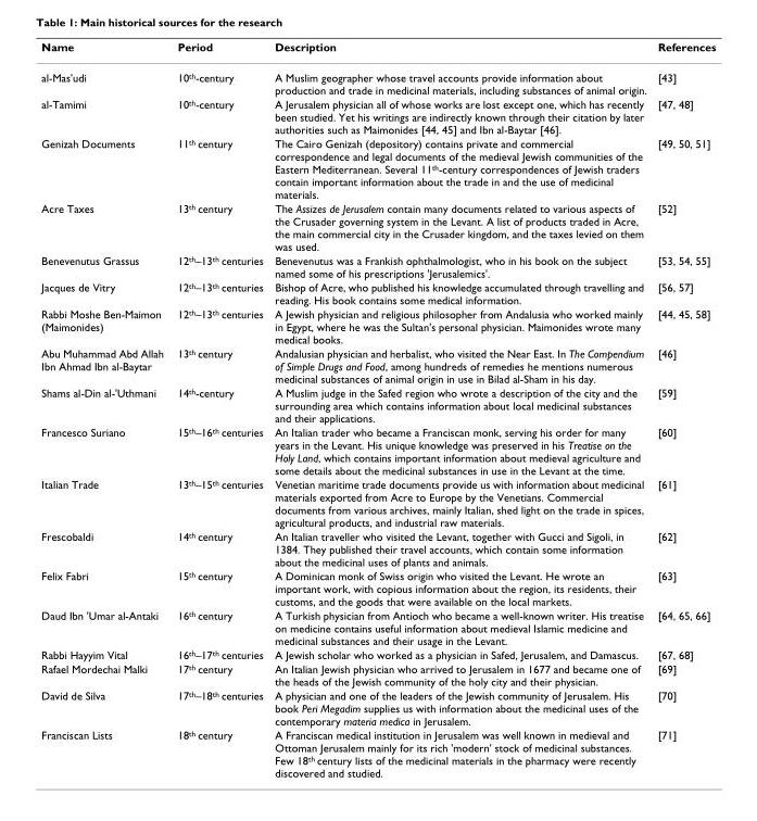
<table><thead><tr><td>Name</td><td>Period</td><td>Description</td><td>References</td></tr></thead><tbody><tr><td>al-Mas&#x27;udi</td><td>10<sup>th</sup>-century</td><td>A Muslim geographer whose travel accounts provide information about production and trade in medicinal materials, including substances of animal origin.</td><td>[43]</td></tr><tr><td>al-Tamimi</td><td>10<sup>th</sup>-century</td><td>A Jerusalem physician all of whose works are lost except one, which has recently been studied. Yet his writings are indirectly known through their citation by later authorities such as Maimonides [44, 45] and Ibn al-Baytar [46].</td><td>[47, 48]</td></tr><tr><td>Genizah Documents</td><td>11<sup>th</sup> century</td><td>The Cairo Genizah (depository) contains private and commercial correspondence and legal documents of the medieval Jewish communities of the Eastern Mediterranean. Several 11<sup>th</sup>-century correspondences of Jewish traders contain important information about the trade in and the use of medicinal materials.</td><td>[49, 50, 51]</td></tr><tr><td>Acre Taxes</td><td>13<sup>th</sup> century</td><td>The Assizes de Jerusalem contain many documents related to various aspects of the Crusader governing system in the Levant. A list of products traded in Acre, the main commercial city in the Crusader kingdom, and the taxes levied on them was used.</td><td>[52]</td></tr><tr><td>Benevenutus Grassus</td><td>12<sup>th</sup>–13<sup>th</sup> centuries</td><td>Benevenutus was a Frankish ophthalmologist, who in his book on the subject named some of his prescriptions &#x27;Jerusalemics&#x27;.</td><td>[53, 54, 55]</td></tr><tr><td>Jacques de Vitry</td><td>12<sup>th</sup>–13<sup>th</sup> centuries</td><td>Bishop of Acre, who published his knowledge accumulated through travelling and reading. His book contains some medical information.</td><td>[56, 57]</td></tr><tr><td>Rabbi Moshe Ben-Maimon (Maimonides)</td><td>12<sup>th</sup>–13<sup>th</sup> centuries</td><td>A Jewish physician and religious philosopher from Andalusia who worked mainly in Egypt, where he was the Sultan&#x27;s personal physician. Maimonides wrote many medical books.</td><td>[44, 45, 58]</td></tr><tr><td>Abu Muhammad Abd Allah Ibn Ahmad Ibn al-Baytar</td><td>13<sup>th</sup> century</td><td>Andalusian physician and herbalist, who visited the Near East. In The Compendium of Simple Drugs and Food, among hundreds of remedies he mentions numerous medicinal substances of animal origin in use in Bilad al-Sham in his day.</td><td>[46]</td></tr><tr><td>Shams al-Din al-&#x27;Uthmani</td><td>14<sup>th</sup>-century</td><td>A Muslim judge in the Safed region who wrote a description of the city and the surrounding area which contains information about local medicinal substances and their applications.</td><td>[59]</td></tr><tr><td>Francesco Suriano</td><td>15<sup>th</sup>–16<sup>th</sup> centuries</td><td>An Italian trader who became a Franciscan monk, serving his order for many years in the Levant. His unique knowledge was preserved in his Treatise on the Holy Land, which contains important information about medieval agriculture and some details about the medicinal substances in use in the Levant at the time.</td><td>[60]</td></tr><tr><td>Italian Trade</td><td>13<sup>th</sup>–15<sup>th</sup> centuries</td><td>Venetian maritime trade documents provide us with information about medicinal materials exported from Acre to Europe by the Venetians. Commercial documents from various archives, mainly Italian, shed light on the trade in spices, agricultural products, and industrial raw materials.</td><td>[61]</td></tr><tr><td>Frescobaldi</td><td>14<sup>th</sup> century</td><td>An Italian traveller who visited the Levant, together with Gucci and Sigoli, in 1384. They published their travel accounts, which contain some information about the medicinal uses of plants and animals.</td><td>[62]</td></tr><tr><td>Felix Fabri</td><td>15<sup>th</sup> century</td><td>A Dominican monk of Swiss origin who visited the Levant. He wrote an important work, with copious information about the region, its residents, their customs, and the goods that were available on the local markets.</td><td>[63]</td></tr><tr><td>Daud Ibn &#x27;Umar al-Antaki</td><td>16<sup>th</sup> century</td><td>A Turkish physician from Antioch who became a well-known writer. His treatise on medicine contains useful information about medieval Islamic medicine and medicinal substances and their usage in the Levant.</td><td>[64, 65, 66]</td></tr><tr><td>Rabbi Hayyim Vital</td><td>16<sup>th</sup>–17<sup>th</sup> centuries</td><td>A Jewish scholar who worked as a physician in Safed, Jerusalem, and Damascus.</td><td>[67, 68]</td></tr><tr><td>Rafael Mordechai Malki</td><td>17<sup>th</sup> century</td><td>An Italian Jewish physician who arrived to Jerusalem in 1677 and became one of the heads of the Jewish community of the holy city and their physician.</td><td>[69]</td></tr><tr><td>David de Silva</td><td>17<sup>th</sup>–18<sup>th</sup> centuries</td><td>A physician and one of the leaders of the Jewish community of Jerusalem. His book Peri Megadim supplies us with information about the medicinal uses of the contemporary materia medica in Jerusalem.</td><td>[70]</td></tr><tr><td>Franciscan Lists</td><td>18<sup>th</sup> century</td><td>A Franciscan medical institution in Jerusalem was well known in medieval and Ottoman Jerusalem mainly for its rich &#x27;modern&#x27; stock of medicinal substances. Few 18<sup>th</sup> century lists of the medicinal materials in the pharmacy were recently discovered and studied.</td><td>[71]</td></tr></tbody></table>